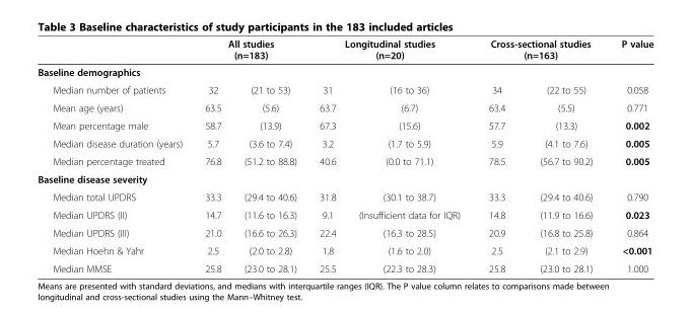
<table><thead><tr><td rowspan="2">Baseline demographics</td><td colspan="2">All studies (n=183)</td><td colspan="2">Longitudinal studies (n=20)</td><td colspan="2">Cross-sectional studies (n=163)</td><td rowspan="2">P value</td></tr><tr><td></td><td></td><td></td><td></td><td></td><td></td></tr></thead><tbody><tr><td>Median number of patients</td><td>32</td><td>(21 to 53)</td><td>31</td><td>(16 to 36)</td><td>34</td><td>(22 to 55)</td><td>0.058</td></tr><tr><td>Mean age (years)</td><td>63.5</td><td>(5.6)</td><td>63.7</td><td>(6.7)</td><td>63.4</td><td>(5.5)</td><td>0.771</td></tr><tr><td>Mean percentage male</td><td>58.7</td><td>(13.9)</td><td>67.3</td><td>(15.6)</td><td>57.7</td><td>(13.3)</td><td>0.002</td></tr><tr><td>Median disease duration (years)</td><td>5.7</td><td>(3.6 to 7.4)</td><td>3.2</td><td>(1.7 to 5.9)</td><td>5.9</td><td>(4.1 to 7.6)</td><td>0.005</td></tr><tr><td>Median percentage treated</td><td>76.8</td><td>(51.2 to 88.8)</td><td>40.6</td><td>(0.0 to 71.1)</td><td>78.5</td><td>(56.7 to 90.2)</td><td>0.005</td></tr><tr><td colspan="8">Baseline disease severity</td></tr><tr><td>Median total UPDRS</td><td>33.3</td><td>(29.4 to 40.6)</td><td>31.8</td><td>(30.1 to 38.7)</td><td>33.3</td><td>(29.4 to 40.6)</td><td>0.790</td></tr><tr><td>Median UPDRS (II)</td><td>14.7</td><td>(11.6 to 16.3)</td><td>9.1</td><td>(Insufficient data for IQR)</td><td>14.8</td><td>(11.9 to 16.6)</td><td>0.023</td></tr><tr><td>Median UPDRS (III)</td><td>21.0</td><td>(16.6 to 26.3)</td><td>22.4</td><td>(16.3 to 28.5)</td><td>20.9</td><td>(16.8 to 25.8)</td><td>0.864</td></tr><tr><td>Median Hoehn &amp; Yahr</td><td>2.5</td><td>(2.0 to 2.8)</td><td>1.8</td><td>(1.6 to 2.0)</td><td>2.5</td><td>(2.1 to 2.9)</td><td>&lt;0.001</td></tr><tr><td>Median MMSE</td><td>25.8</td><td>(23.0 to 28.1)</td><td>25.5</td><td>(22.3 to 28.3)</td><td>25.8</td><td>(23.0 to 28.1)</td><td>1.000</td></tr></tbody></table>